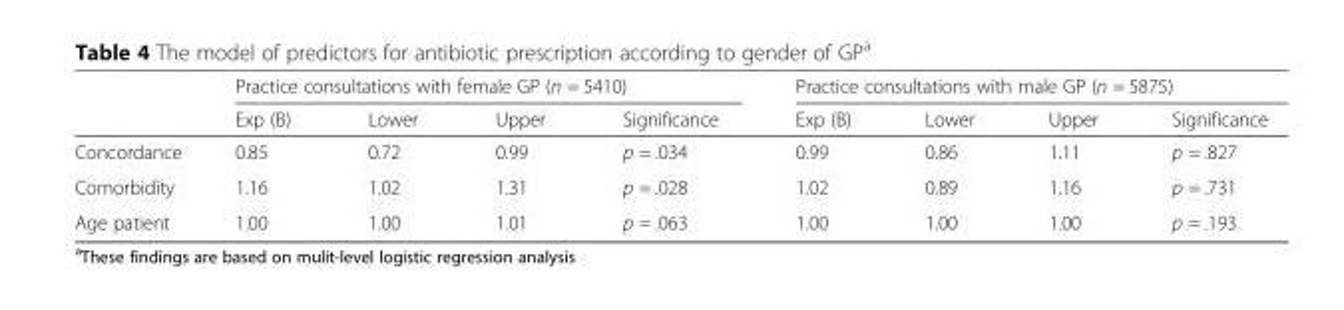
<table><thead><tr><td rowspan="2"></td><td colspan="4">Practice consultations with female GP (n = 5410)</td><td colspan="4">Practice consultations with male GP (n = 5875)</td></tr><tr><td>Exp (B)</td><td>Lower</td><td>Upper</td><td>Significance</td><td>Exp (B)</td><td>Lower</td><td>Upper</td><td>Significance</td></tr></thead><tbody><tr><td>Concordance</td><td>0.85</td><td>0.72</td><td>0.99</td><td>p = .034</td><td>0.99</td><td>0.86</td><td>1.11</td><td>p = .827</td></tr><tr><td>Comorbidity</td><td>1.16</td><td>1.02</td><td>1.31</td><td>p = .028</td><td>1.02</td><td>0.89</td><td>1.16</td><td>p = .731</td></tr><tr><td>Age patient</td><td>1.00</td><td>1.00</td><td>1.01</td><td>p = .063</td><td>1.00</td><td>1.00</td><td>1.00</td><td>p = .193</td></tr></tbody></table>